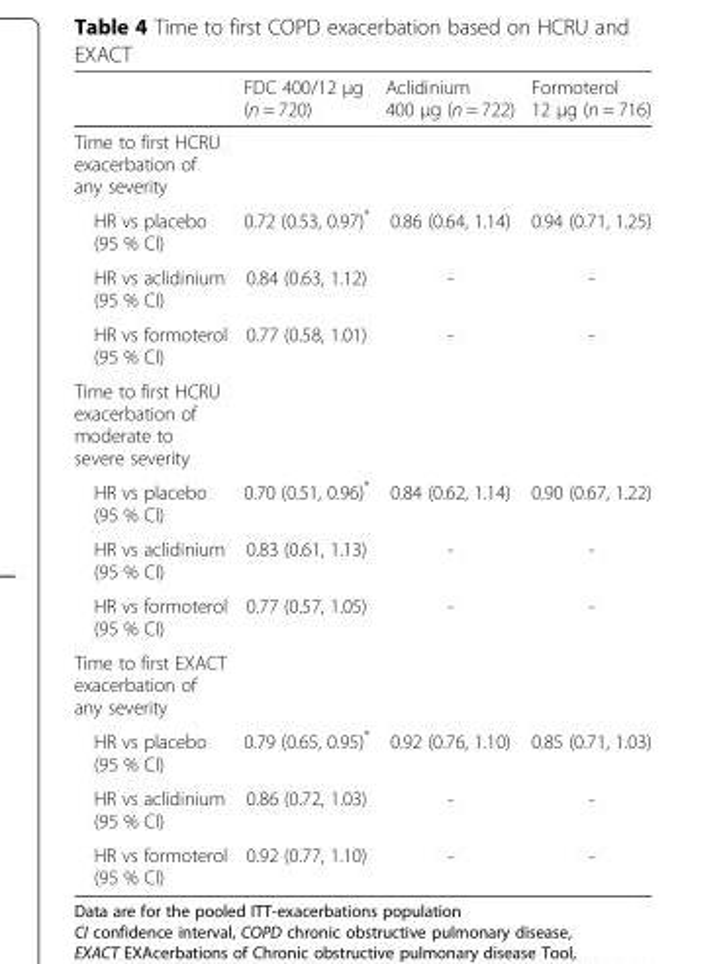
<table><thead><tr><td></td><td>FDC 400/12 μg (n = 720)</td><td>Aclidinium 400 μg (n = 722)</td><td>Formoterol 12 μg (n = 716)</td></tr></thead><tbody><tr><td colspan="4">Time to first HCRU exacerbation of any severity</td></tr><tr><td>HR vs placebo (95 % CI)</td><td>0.72 (0.53, 0.97)*</td><td>0.86 (0.64, 1.14)</td><td>0.94 (0.71, 1.25)</td></tr><tr><td>HR vs aclidinium (95 % CI)</td><td>0.84 (0.63, 1.12)</td><td>-</td><td>-</td></tr><tr><td>HR vs formoterol (95 % CI)</td><td>0.77 (0.58, 1.01)</td><td>-</td><td>-</td></tr><tr><td colspan="4">Time to first HCRU exacerbation of moderate to severe severity</td></tr><tr><td>HR vs placebo (95 % CI)</td><td>0.70 (0.51, 0.96)*</td><td>0.84 (0.62, 1.14)</td><td>0.90 (0.67, 1.22)</td></tr><tr><td>HR vs aclidinium (95 % CI)</td><td>0.83 (0.61, 1.13)</td><td>-</td><td>-</td></tr><tr><td>HR vs formoterol (95 % CI)</td><td>0.77 (0.57, 1.05)</td><td>-</td><td>-</td></tr><tr><td colspan="4">Time to first EXACT exacerbation of any severity</td></tr><tr><td>HR vs placebo (95 % CI)</td><td>0.79 (0.65, 0.95)*</td><td>0.92 (0.76, 1.10)</td><td>0.85 (0.71, 1.03)</td></tr><tr><td>HR vs aclidinium (95 % CI)</td><td>0.86 (0.72, 1.03)</td><td>-</td><td>-</td></tr><tr><td>HR vs formoterol (95 % CI)</td><td>0.92 (0.77, 1.10)</td><td>-</td><td>-</td></tr></tbody></table>